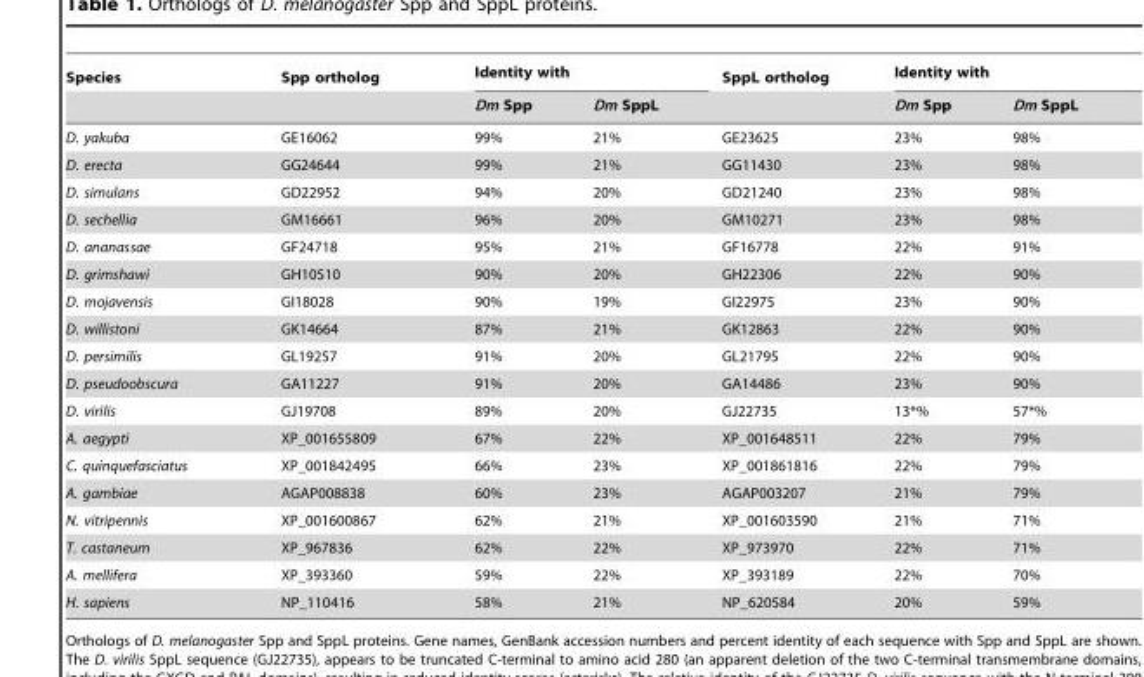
<table><thead><tr><td rowspan="2">Species</td><td rowspan="2">Spp ortholog</td><td colspan="2">Identity with</td><td rowspan="2">SppL ortholog</td><td colspan="2">Identity with</td></tr><tr><td>Dm Spp</td><td>Dm SppL</td><td>Dm Spp</td><td>Dm SppL</td></tr></thead><tbody><tr><td>D. yakuba</td><td>GE16062</td><td>99%</td><td>21%</td><td>GE23625</td><td>23%</td><td>98%</td></tr><tr><td>D. erecta</td><td>GG24644</td><td>99%</td><td>21%</td><td>GG11430</td><td>23%</td><td>98%</td></tr><tr><td>D. simulans</td><td>GD22952</td><td>94%</td><td>20%</td><td>GD21240</td><td>23%</td><td>98%</td></tr><tr><td>D. sechellia</td><td>GM16661</td><td>96%</td><td>20%</td><td>GM10271</td><td>23%</td><td>98%</td></tr><tr><td>D. ananassae</td><td>GF24718</td><td>95%</td><td>21%</td><td>GF16778</td><td>22%</td><td>91%</td></tr><tr><td>D. grimshawi</td><td>GH10510</td><td>90%</td><td>20%</td><td>GH22306</td><td>22%</td><td>90%</td></tr><tr><td>D. mojavensis</td><td>GI18028</td><td>90%</td><td>19%</td><td>GI22975</td><td>23%</td><td>90%</td></tr><tr><td>D. willistoni</td><td>GK14664</td><td>87%</td><td>21%</td><td>GK12863</td><td>22%</td><td>90%</td></tr><tr><td>D. persimilis</td><td>GL19257</td><td>91%</td><td>20%</td><td>GL21795</td><td>22%</td><td>90%</td></tr><tr><td>D. pseudoobscura</td><td>GA11227</td><td>91%</td><td>20%</td><td>GA14486</td><td>23%</td><td>90%</td></tr><tr><td>D. virilis</td><td>GJ19708</td><td>89%</td><td>20%</td><td>GJ22735</td><td>13*%</td><td>57*%</td></tr><tr><td>A. aegypti</td><td>XP_001655809</td><td>67%</td><td>22%</td><td>XP_001648511</td><td>22%</td><td>79%</td></tr><tr><td>C. quinquefasciatus</td><td>XP_001842495</td><td>66%</td><td>23%</td><td>XP_001861816</td><td>22%</td><td>79%</td></tr><tr><td>A. gambiae</td><td>AGAP008838</td><td>60%</td><td>23%</td><td>AGAP003207</td><td>21%</td><td>79%</td></tr><tr><td>N. vitripennis</td><td>XP_001600867</td><td>62%</td><td>21%</td><td>XP_001603590</td><td>21%</td><td>71%</td></tr><tr><td>T. castaneum</td><td>XP_967836</td><td>62%</td><td>22%</td><td>XP_973970</td><td>22%</td><td>71%</td></tr><tr><td>A. mellifera</td><td>XP_393360</td><td>59%</td><td>22%</td><td>XP_393189</td><td>22%</td><td>70%</td></tr><tr><td>H. sapiens</td><td>NP_110416</td><td>58%</td><td>21%</td><td>NP_620584</td><td>20%</td><td>59%</td></tr></tbody></table>